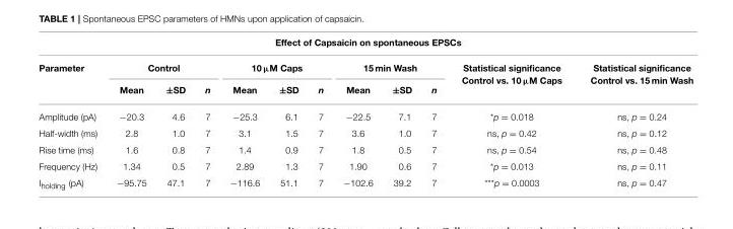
<table><thead><tr><td colspan="12">Effect of Capsaicin on spontaneous EPSCs</td></tr><tr><td rowspan="2">Parameter</td><td colspan="3">Control</td><td colspan="3">10 µM Caps</td><td colspan="3">15 min Wash</td><td rowspan="2">Statistical significance Control vs. 10 µM Caps</td><td rowspan="2">Statistical significance Control vs. 15 min Wash</td></tr><tr><td>Mean</td><td>±SD</td><td>n</td><td>Mean</td><td>±SD</td><td>n</td><td>Mean</td><td>±SD</td><td>n</td></tr></thead><tbody><tr><td>Amplitude (pA)</td><td>−20.3</td><td>4.6</td><td>7</td><td>−25.3</td><td>6.1</td><td>7</td><td>−22.5</td><td>7.1</td><td>7</td><td>*p = 0.018</td><td>ns, p = 0.24</td></tr><tr><td>Half-width (ms)</td><td>2.8</td><td>1.0</td><td>7</td><td>3.1</td><td>1.5</td><td>7</td><td>3.6</td><td>1.0</td><td>7</td><td>ns, p = 0.42</td><td>ns, p = 0.12</td></tr><tr><td>Rise time (ms)</td><td>1.6</td><td>0.8</td><td>7</td><td>1.4</td><td>0.9</td><td>7</td><td>1.8</td><td>0.5</td><td>7</td><td>ns, p = 0.54</td><td>ns, p = 0.48</td></tr><tr><td>Frequency (Hz)</td><td>1.34</td><td>0.5</td><td>7</td><td>2.89</td><td>1.3</td><td>7</td><td>1.90</td><td>0.6</td><td>7</td><td>*p = 0.013</td><td>ns, p = 0.11</td></tr><tr><td>I<sub>holding</sub> (pA)</td><td>−95.75</td><td>47.1</td><td>7</td><td>−116.6</td><td>51.1</td><td>7</td><td>−102.6</td><td>39.2</td><td>7</td><td>***p = 0.0003</td><td>ns, p = 0.47</td></tr></tbody></table>